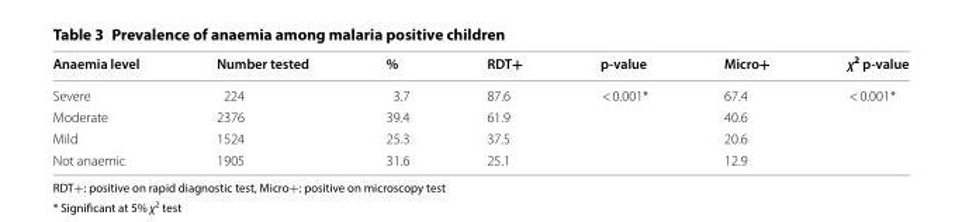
<table><thead><tr><td>Anaemia level</td><td>Number tested</td><td>%</td><td>RDT+</td><td>p-value</td><td>Micro+</td><td>χ<sup>2</sup> p-value</td></tr></thead><tbody><tr><td>Severe</td><td>224</td><td>3.7</td><td>87.6</td><td>&lt; 0.001*</td><td>67.4</td><td>&lt; 0.001*</td></tr><tr><td>Moderate</td><td>2376</td><td>39.4</td><td>61.9</td><td></td><td>40.6</td><td></td></tr><tr><td>Mild</td><td>1524</td><td>25.3</td><td>37.5</td><td></td><td>20.6</td><td></td></tr><tr><td>Not anaemic</td><td>1905</td><td>31.6</td><td>25.1</td><td></td><td>12.9</td><td></td></tr></tbody></table>